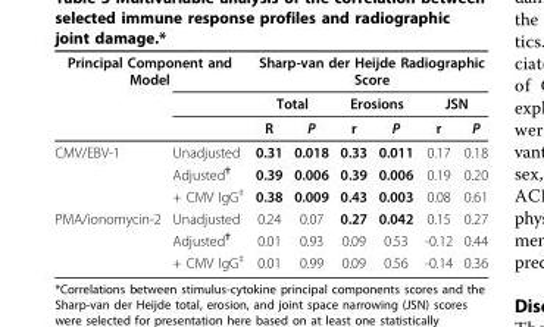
<table><thead><tr><td colspan="2">Principal Component and Model</td><td colspan="6">Sharp-van der Heijde Radiographic Score</td></tr><tr><td rowspan="2"></td><td rowspan="2"></td><td colspan="2">Total</td><td colspan="2">Erosions</td><td colspan="2">JSN</td></tr><tr><td>R</td><td>P</td><td>r</td><td>P</td><td>r</td><td>P</td></tr></thead><tbody><tr><td rowspan="3">CMV/EBV-1</td><td>Unadjusted</td><td>0.31</td><td>0.018</td><td>0.33</td><td>0.011</td><td>0.17</td><td>0.18</td></tr><tr><td>Adjusted<sup>†</sup></td><td>0.39</td><td>0.006</td><td>0.39</td><td>0.006</td><td>0.19</td><td>0.20</td></tr><tr><td>+ CMV IgG<sup>‡</sup></td><td>0.38</td><td>0.009</td><td>0.43</td><td>0.003</td><td>0.08</td><td>0.61</td></tr><tr><td rowspan="3">PMA/ionomycin-2</td><td>Unadjusted</td><td>0.24</td><td>0.07</td><td>0.27</td><td>0.042</td><td>0.15</td><td>0.27</td></tr><tr><td>Adjusted<sup>†</sup></td><td>0.01</td><td>0.93</td><td>0.09</td><td>0.53</td><td>-0.12</td><td>0.44</td></tr><tr><td>+ CMV IgG<sup>‡</sup></td><td>0.01</td><td>0.99</td><td>0.09</td><td>0.56</td><td>-0.14</td><td>0.36</td></tr></tbody></table>